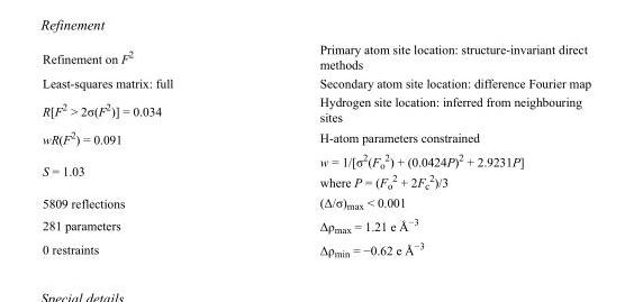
<table><tbody><tr><td>Refinement on F<sup>2</sup></td><td>Primary atom site location: structure-invariant direct methods</td></tr><tr><td>Least-squares matrix: full</td><td>Secondary atom site location: difference Fourier map</td></tr><tr><td>R[F<sup>2</sup> &gt; 2σ(F<sup>2</sup>)] = 0.034</td><td>Hydrogen site location: inferred from neighbouring sites</td></tr><tr><td>wR(F<sup>2</sup>) = 0.091</td><td>H-atom parameters constrained</td></tr><tr><td>S = 1.03</td><td>w = 1/[σ<sup>2</sup>(F<sub>o</sub> <sup>2</sup>) + (0.0424P)<sup>2</sup> + 2.9231P] where P = (F<sub>o</sub> <sup>2</sup> + 2F<sub>c</sub> <sup>2</sup>)/3</td></tr><tr><td>5809 reflections</td><td>(Δ/σ)<sub>max</sub> &lt; 0.001</td></tr><tr><td>281 parameters</td><td>Δρ<sub>max</sub> = 1.21 e Å<sup>−3</sup></td></tr><tr><td>0 restraints</td><td>Δρ<sub>min</sub> = −0.62 e Å<sup>−3</sup></td></tr></tbody></table>